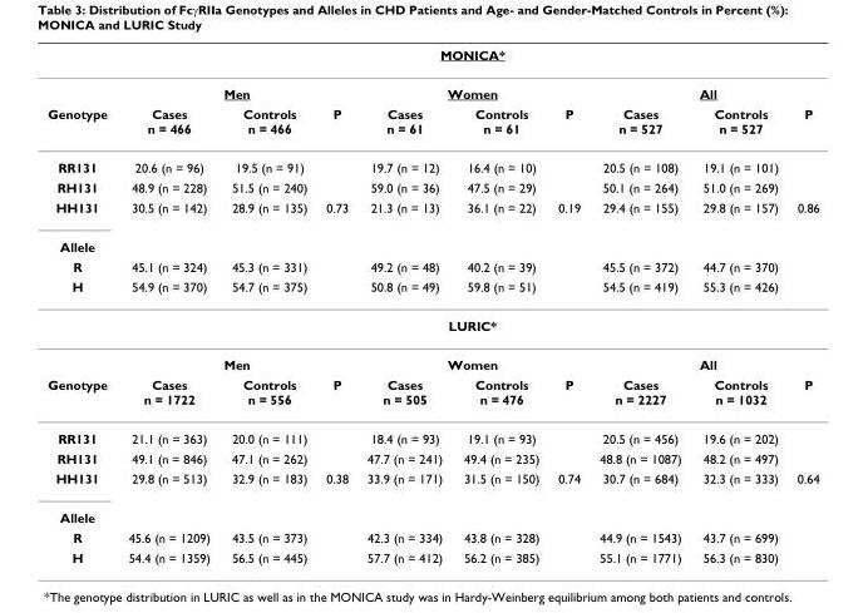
<table><thead><tr><td rowspan="3">Genotype</td><td colspan="9">MONICA*</td></tr><tr><td colspan="3">Men</td><td colspan="3">Women</td><td colspan="3">All</td></tr><tr><td>Cases n = 466</td><td>Controls n = 466</td><td>P</td><td>Cases n = 61</td><td>Controls n = 61</td><td>P</td><td>Cases n = 527</td><td>Controls n = 527</td><td>P</td></tr></thead><tbody><tr><td>RR131</td><td>20.6 (n = 96)</td><td>19.5 (n = 91)</td><td></td><td>19.7 (n = 12)</td><td>16.4 (n = 10)</td><td></td><td>20.5 (n = 108)</td><td>19.1 (n = 101)</td><td></td></tr><tr><td>RH131</td><td>48.9 (n = 228)</td><td>51.5 (n = 240)</td><td></td><td>59.0 (n = 36)</td><td>47.5 (n = 29)</td><td></td><td>50.1 (n = 264)</td><td>51.0 (n = 269)</td><td></td></tr><tr><td>HH131</td><td>30.5 (n = 142)</td><td>28.9 (n = 135)</td><td>0.73</td><td>21.3 (n = 13)</td><td>36.1 (n = 22)</td><td>0.19</td><td>29.4 (n = 155)</td><td>29.8 (n = 157)</td><td>0.86</td></tr><tr><td colspan="10">Allele</td></tr><tr><td>R</td><td>45.1 (n = 324)</td><td>45.3 (n = 331)</td><td></td><td>49.2 (n = 48)</td><td>40.2 (n = 39)</td><td></td><td>45.5 (n = 372)</td><td>44.7 (n = 370)</td><td></td></tr><tr><td rowspan="3">H</td><td>54.9 (n = 370)</td><td>54.7 (n = 375)</td><td></td><td>50.8 (n = 49)</td><td>59.8 (n = 51)</td><td></td><td>54.5 (n = 419)</td><td>55.3 (n = 426)</td><td></td></tr><tr><td colspan="9">LURIC*</td></tr><tr><td colspan="3">Men</td><td colspan="3">Women</td><td colspan="3">All</td></tr><tr><td>Genotype</td><td>Cases n = 1722</td><td>Controls n = 556</td><td>P</td><td>Cases n = 505</td><td>Controls n = 476</td><td>P</td><td>Cases n = 2227</td><td>Controls n = 1032</td><td>P</td></tr><tr><td>RR131</td><td>21.1 (n = 363)</td><td>20.0 (n = 111)</td><td></td><td>18.4 (n = 93)</td><td>19.1 (n = 93)</td><td></td><td>20.5 (n = 456)</td><td>19.6 (n = 202)</td><td></td></tr><tr><td>RH131</td><td>49.1 (n = 846)</td><td>47.1 (n = 262)</td><td></td><td>47.7 (n = 241)</td><td>49.4 (n = 235)</td><td></td><td>48.8 (n = 1087)</td><td>48.2 (n = 497)</td><td></td></tr><tr><td>HH131</td><td>29.8 (n = 513)</td><td>32.9 (n = 183)</td><td>0.38</td><td>33.9 (n = 171)</td><td>31.5 (n = 150)</td><td>0.74</td><td>30.7 (n = 684)</td><td>32.3 (n = 333)</td><td>0.64</td></tr><tr><td colspan="10">Allele</td></tr><tr><td>R</td><td>45.6 (n = 1209)</td><td>43.5 (n = 373)</td><td></td><td>42.3 (n = 334)</td><td>43.8 (n = 328)</td><td></td><td>44.9 (n = 1543)</td><td>43.7 (n = 699)</td><td></td></tr><tr><td>H</td><td>54.4 (n = 1359)</td><td>56.5 (n = 445)</td><td></td><td>57.7 (n = 412)</td><td>56.2 (n = 385)</td><td></td><td>55.1 (n = 1771)</td><td>56.3 (n = 830)</td><td></td></tr></tbody></table>